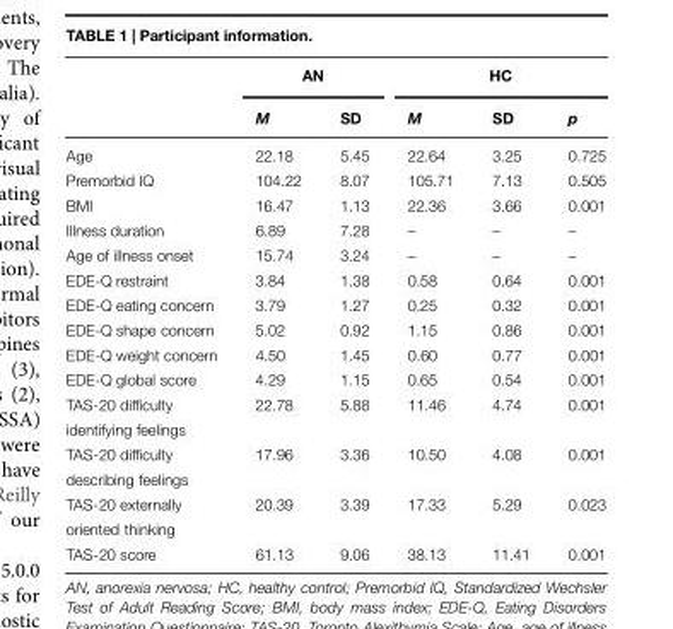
<table><thead><tr><td rowspan="2"></td><td colspan="2">AN</td><td colspan="3">HC</td></tr><tr><td>M</td><td>SD</td><td>M</td><td>SD</td><td>p</td></tr></thead><tbody><tr><td>Age</td><td>22.18</td><td>5.45</td><td>22.64</td><td>3.25</td><td>0.725</td></tr><tr><td>Premorbid IQ</td><td>104.22</td><td>8.07</td><td>105.71</td><td>7.13</td><td>0.505</td></tr><tr><td>BMI</td><td>16.47</td><td>1.13</td><td>22.36</td><td>3.66</td><td>0.001</td></tr><tr><td>Illness duration</td><td>6.89</td><td>7.28</td><td>–</td><td>–</td><td>–</td></tr><tr><td>Age of illness onset</td><td>15.74</td><td>3.24</td><td>–</td><td>–</td><td>–</td></tr><tr><td>EDE-Q restraint</td><td>3.84</td><td>1.38</td><td>0.58</td><td>0.64</td><td>0.001</td></tr><tr><td>EDE-Q eating concern</td><td>3.79</td><td>1.27</td><td>0.25</td><td>0.32</td><td>0.001</td></tr><tr><td>EDE-Q shape concern</td><td>5.02</td><td>0.92</td><td>1.15</td><td>0.86</td><td>0.001</td></tr><tr><td>EDE-Q weight concern</td><td>4.50</td><td>1.45</td><td>0.60</td><td>0.77</td><td>0.001</td></tr><tr><td>EDE-Q global score</td><td>4.29</td><td>1.15</td><td>0.65</td><td>0.54</td><td>0.001</td></tr><tr><td>TAS-20 difficulty</td><td>22.78</td><td>5.88</td><td>11.46</td><td>4.74</td><td>0.001</td></tr><tr><td colspan="6">identifying feelings</td></tr><tr><td>TAS-20 difficulty</td><td>17.96</td><td>3.36</td><td>10.50</td><td>4.08</td><td>0.001</td></tr><tr><td colspan="6">describing feelings</td></tr><tr><td>TAS-20 externally</td><td>20.39</td><td>3.39</td><td>17.33</td><td>5.29</td><td>0.023</td></tr><tr><td colspan="6">oriented thinking</td></tr><tr><td>TAS-20 score</td><td>61.13</td><td>9.06</td><td>38.13</td><td>11.41</td><td>0.001</td></tr></tbody></table>